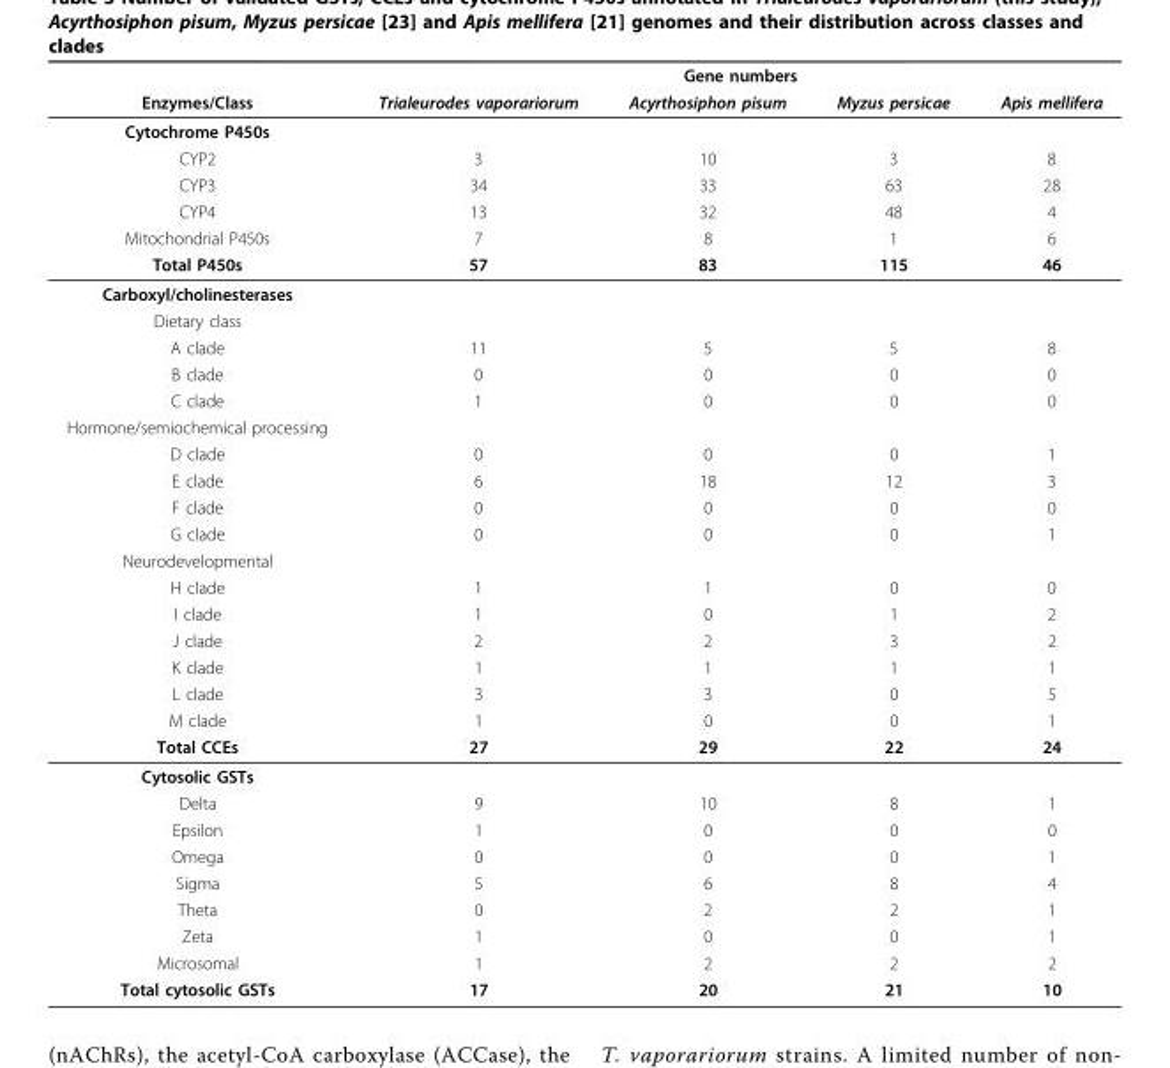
<table><thead><tr><td rowspan="2">Enzymes/Class</td><td colspan="4">Gene numbers</td></tr><tr><td>Trialeurodes vaporariorum</td><td>Acyrthosiphon pisum</td><td>Myzus persicae</td><td>Apis mellifera</td></tr></thead><tbody><tr><td colspan="5">Cytochrome P450s</td></tr><tr><td>CYP2</td><td>3</td><td>10</td><td>3</td><td>8</td></tr><tr><td>CYP3</td><td>34</td><td>33</td><td>63</td><td>28</td></tr><tr><td>CYP4</td><td>13</td><td>32</td><td>48</td><td>4</td></tr><tr><td>Mitochondrial P450s</td><td>7</td><td>8</td><td>1</td><td>6</td></tr><tr><td>Total P450s</td><td>57</td><td>83</td><td>115</td><td>46</td></tr><tr><td colspan="5">Carboxyl/cholinesterases</td></tr><tr><td colspan="5">Dietary class</td></tr><tr><td>A clade</td><td>11</td><td>5</td><td>5</td><td>8</td></tr><tr><td>B clade</td><td>0</td><td>0</td><td>0</td><td>0</td></tr><tr><td>C clade</td><td>1</td><td>0</td><td>0</td><td>0</td></tr><tr><td colspan="5">Hormone/semiochemical processing</td></tr><tr><td>D clade</td><td>0</td><td>0</td><td>0</td><td>1</td></tr><tr><td>E clade</td><td>6</td><td>18</td><td>12</td><td>3</td></tr><tr><td>F clade</td><td>0</td><td>0</td><td>0</td><td>0</td></tr><tr><td>G clade</td><td>0</td><td>0</td><td>0</td><td>1</td></tr><tr><td colspan="5">Neurodevelopmental</td></tr><tr><td>H clade</td><td>1</td><td>1</td><td>0</td><td>0</td></tr><tr><td>I clade</td><td>1</td><td>0</td><td>1</td><td>2</td></tr><tr><td>J clade</td><td>2</td><td>2</td><td>3</td><td>2</td></tr><tr><td>K clade</td><td>1</td><td>1</td><td>1</td><td>1</td></tr><tr><td>L clade</td><td>3</td><td>3</td><td>0</td><td>5</td></tr><tr><td>M clade</td><td>1</td><td>0</td><td>0</td><td>1</td></tr><tr><td>Total CCEs</td><td>27</td><td>29</td><td>22</td><td>24</td></tr><tr><td colspan="5">Cytosolic GSTs</td></tr><tr><td>Delta</td><td>9</td><td>10</td><td>8</td><td>1</td></tr><tr><td>Epsilon</td><td>1</td><td>0</td><td>0</td><td>0</td></tr><tr><td>Omega</td><td>0</td><td>0</td><td>0</td><td>1</td></tr><tr><td>Sigma</td><td>5</td><td>6</td><td>8</td><td>4</td></tr><tr><td>Theta</td><td>0</td><td>2</td><td>2</td><td>1</td></tr><tr><td>Zeta</td><td>1</td><td>0</td><td>0</td><td>1</td></tr><tr><td>Microsomal</td><td>1</td><td>2</td><td>2</td><td>2</td></tr><tr><td>Total cytosolic GSTs</td><td>17</td><td>20</td><td>21</td><td>10</td></tr></tbody></table>